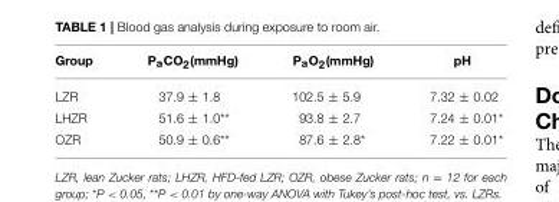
<table><thead><tr><td>Group</td><td>P<sub>a</sub>CO<sub>2</sub>(mmHg)</td><td>P<sub>a</sub>O<sub>2</sub>(mmHg)</td><td>pH</td></tr></thead><tbody><tr><td>LZR</td><td>37.9 ± 1.8</td><td>102.5 ± 5.9</td><td>7.32 ± 0.02</td></tr><tr><td>LHZR</td><td>51.6 ± 1.0**</td><td>93.8 ± 2.7</td><td>7.24 ± 0.01*</td></tr><tr><td>OZR</td><td>50.9 ± 0.6**</td><td>87.6 ± 2.8*</td><td>7.22 ± 0.01*</td></tr></tbody></table>